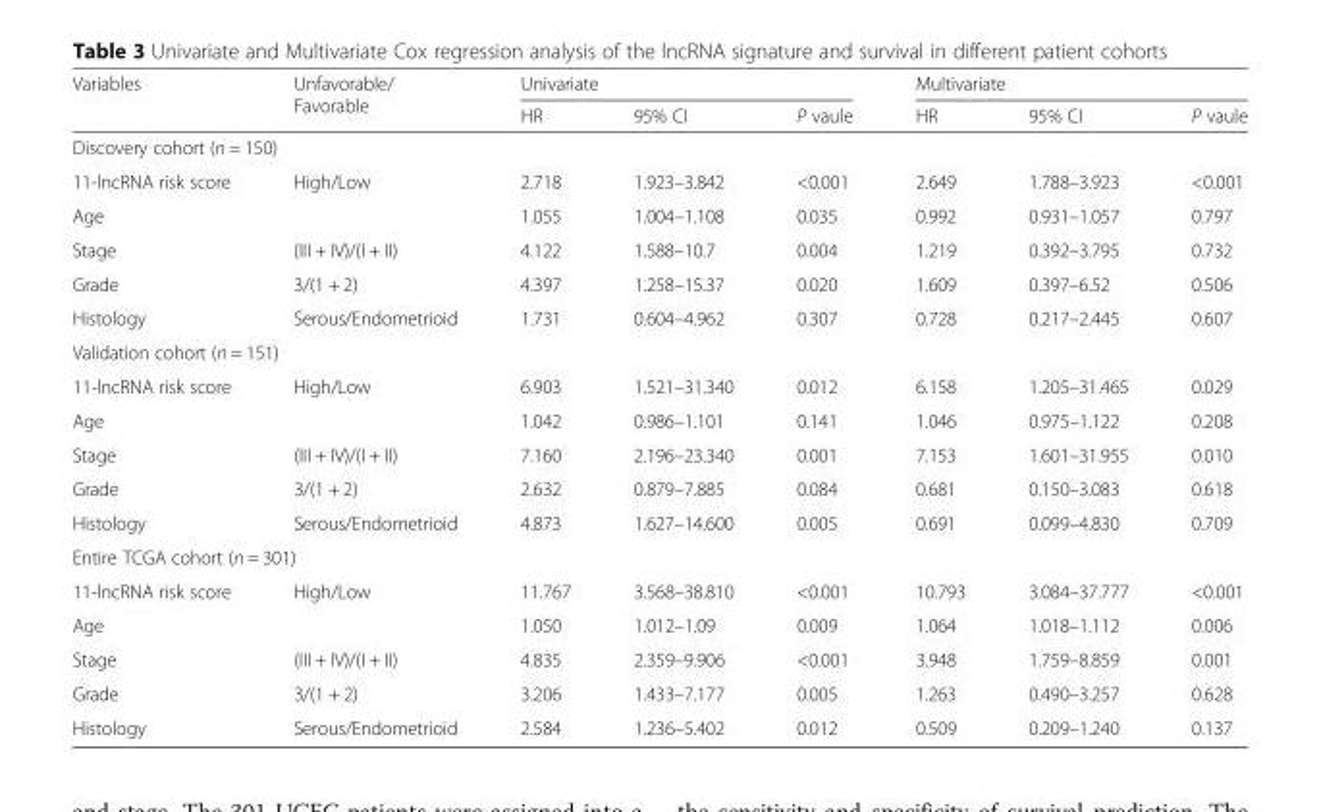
<table><thead><tr><td rowspan="2">Variables</td><td rowspan="2">Unfavorable/ Favorable</td><td colspan="3">Univariate</td><td colspan="3">Multivariate</td></tr><tr><td>HR</td><td>95% CI</td><td>P vaule</td><td>HR</td><td>95% CI</td><td>P vaule</td></tr></thead><tbody><tr><td colspan="8">Discovery cohort (n = 150)</td></tr><tr><td>11-lncRNA risk score</td><td>High/Low</td><td>2.718</td><td>1.923–3.842</td><td>&lt;0.001</td><td>2.649</td><td>1.788–3.923</td><td>&lt;0.001</td></tr><tr><td>Age</td><td></td><td>1.055</td><td>1.004–1.108</td><td>0.035</td><td>0.992</td><td>0.931–1.057</td><td>0.797</td></tr><tr><td>Stage</td><td>(III + IV)/(I + II)</td><td>4.122</td><td>1.588–10.7</td><td>0.004</td><td>1.219</td><td>0.392–3.795</td><td>0.732</td></tr><tr><td>Grade</td><td>3/(1 + 2)</td><td>4.397</td><td>1.258–15.37</td><td>0.020</td><td>1.609</td><td>0.397–6.52</td><td>0.506</td></tr><tr><td>Histology</td><td>Serous/Endometrioid</td><td>1.731</td><td>0.604–4.962</td><td>0.307</td><td>0.728</td><td>0.217–2.445</td><td>0.607</td></tr><tr><td colspan="8">Validation cohort (n = 151)</td></tr><tr><td>11-lncRNA risk score</td><td>High/Low</td><td>6.903</td><td>1.521–31.340</td><td>0.012</td><td>6.158</td><td>1.205–31.465</td><td>0.029</td></tr><tr><td>Age</td><td></td><td>1.042</td><td>0.986–1.101</td><td>0.141</td><td>1.046</td><td>0.975–1.122</td><td>0.208</td></tr><tr><td>Stage</td><td>(III + IV)/(I + II)</td><td>7.160</td><td>2.196–23.340</td><td>0.001</td><td>7.153</td><td>1.601–31.955</td><td>0.010</td></tr><tr><td>Grade</td><td>3/(1 + 2)</td><td>2.632</td><td>0.879–7.885</td><td>0.084</td><td>0.681</td><td>0.150–3.083</td><td>0.618</td></tr><tr><td>Histology</td><td>Serous/Endometrioid</td><td>4.873</td><td>1.627–14.600</td><td>0.005</td><td>0.691</td><td>0.099–4.830</td><td>0.709</td></tr><tr><td colspan="8">Entire TCGA cohort (n = 301)</td></tr><tr><td>11-lncRNA risk score</td><td>High/Low</td><td>11.767</td><td>3.568–38.810</td><td>&lt;0.001</td><td>10.793</td><td>3.084–37.777</td><td>&lt;0.001</td></tr><tr><td>Age</td><td></td><td>1.050</td><td>1.012–1.09</td><td>0.009</td><td>1.064</td><td>1.018–1.112</td><td>0.006</td></tr><tr><td>Stage</td><td>(III + IV)/(I + II)</td><td>4.835</td><td>2.359–9.906</td><td>&lt;0.001</td><td>3.948</td><td>1.759–8.859</td><td>0.001</td></tr><tr><td>Grade</td><td>3/(1 + 2)</td><td>3.206</td><td>1.433–7.177</td><td>0.005</td><td>1.263</td><td>0.490–3.257</td><td>0.628</td></tr><tr><td>Histology</td><td>Serous/Endometrioid</td><td>2.584</td><td>1.236–5.402</td><td>0.012</td><td>0.509</td><td>0.209–1.240</td><td>0.137</td></tr></tbody></table>